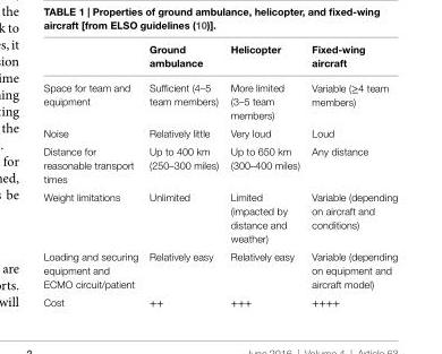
<table><thead><tr><td></td><td>Ground ambulance</td><td>Helicopter</td><td>Fixed-wing aircraft</td></tr></thead><tbody><tr><td>Space for team and equipment</td><td>Sufficient (4–5 team members)</td><td>More limited (3–5 team members)</td><td>Variable (≥4 team members)</td></tr><tr><td>Noise</td><td>Relatively little</td><td>Very loud</td><td>Loud</td></tr><tr><td>Distance for reasonable transport times</td><td>Up to 400 km (250–300 miles)</td><td>Up to 650 km (300–400 miles)</td><td>Any distance</td></tr><tr><td>Weight limitations</td><td>Unlimited</td><td>Limited (impacted by distance and weather)</td><td>Variable (depending on aircraft and conditions)</td></tr><tr><td>Loading and securing equipment and ECMO circuit/patient</td><td>Relatively easy</td><td>Relatively easy</td><td>Variable (depending on equipment and aircraft model)</td></tr><tr><td>Cost</td><td>++</td><td>+++</td><td>++++</td></tr></tbody></table>